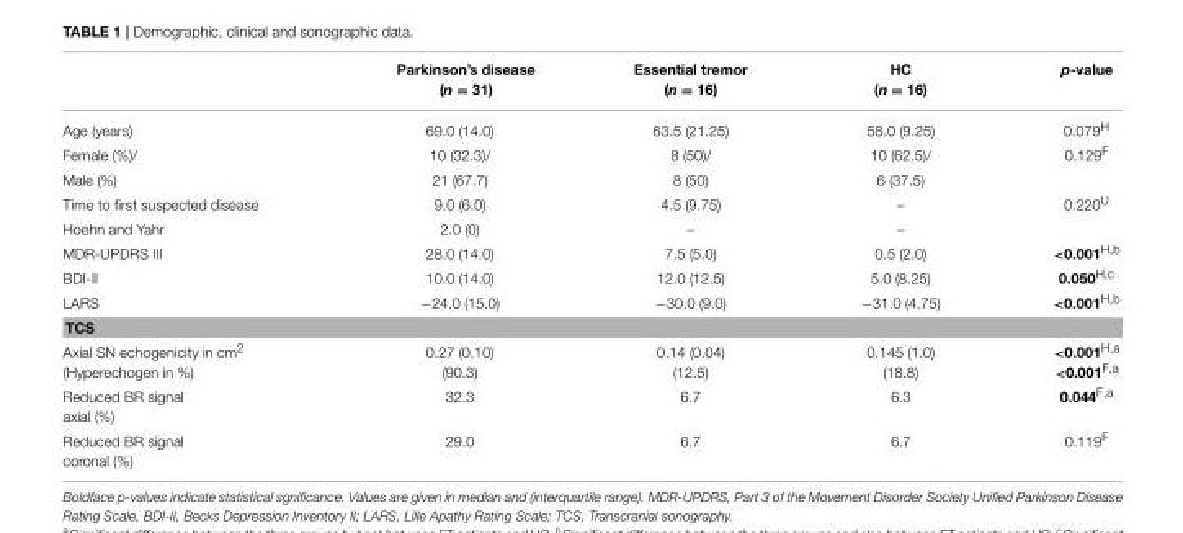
<table><thead><tr><td></td><td>Parkinson’s disease (n = 31)</td><td>Essential tremor (n = 16)</td><td>HC (n = 16)</td><td>p-value</td></tr></thead><tbody><tr><td>Age (years)</td><td>69.0 (14.0)</td><td>63.5 (21.25)</td><td>58.0 (9.25)</td><td>0.079<sup>H</sup></td></tr><tr><td>Female (%)/</td><td>10 (32.3)/</td><td>8 (50)/</td><td>10 (62.5)/</td><td>0.129<sup>F</sup></td></tr><tr><td>Male (%)</td><td>21 (67.7)</td><td>8 (50)</td><td>6 (37.5)</td><td></td></tr><tr><td>Time to first suspected disease</td><td>9.0 (6.0)</td><td>4.5 (9.75)</td><td>–</td><td>0.220<sup>U</sup></td></tr><tr><td>Hoehn and Yahr</td><td>2.0 (0)</td><td>–</td><td>–</td><td></td></tr><tr><td>MDR-UPDRS III</td><td>28.0 (14.0)</td><td>7.5 (5.0)</td><td>0.5 (2.0)</td><td>&lt;0.001<sup>H</sup>,<sup>b</sup></td></tr><tr><td>BDI-II</td><td>10.0 (14.0)</td><td>12.0 (12.5)</td><td>5.0 (8.25)</td><td>0.050<sup>H</sup>,<sup>c</sup></td></tr><tr><td>LARS</td><td>−24.0 (15.0)</td><td>−30.0 (9.0)</td><td>−31.0 (4.75)</td><td>&lt;0.001<sup>H</sup>,<sup>b</sup></td></tr><tr><td colspan="5">TCS</td></tr><tr><td>Axial SN echogenicity in cm<sup>2</sup> (Hyperechogen in %)</td><td>0.27 (0.10) (90.3)</td><td>0.14 (0.04) (12.5)</td><td>0.145 (1.0) (18.8)</td><td>&lt;0.001<sup>H</sup>,<sup>a</sup> &lt;0.001<sup>F</sup>,<sup>a</sup></td></tr><tr><td>Reduced BR signal axial (%)</td><td>32.3</td><td>6.7</td><td>6.3</td><td>0.044<sup>F</sup>,<sup>a</sup></td></tr><tr><td>Reduced BR signal coronal (%)</td><td>29.0</td><td>6.7</td><td>6.7</td><td>0.119<sup>F</sup></td></tr></tbody></table>